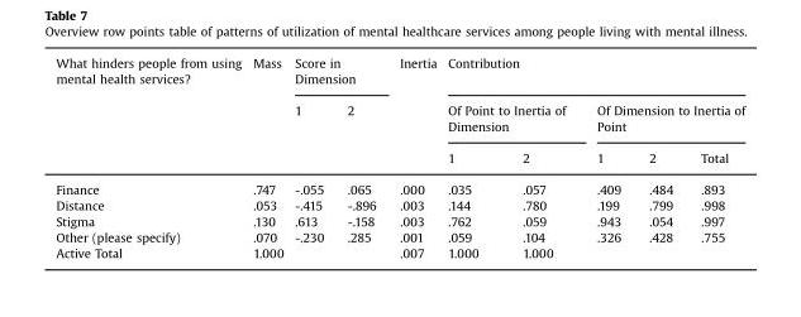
<table><thead><tr><td rowspan="3">What hinders people from using mental health services?</td><td rowspan="3">Mass</td><td colspan="2">Score in Dimension</td><td rowspan="3">Inertia</td><td colspan="5">Contribution</td></tr><tr><td rowspan="2">1</td><td rowspan="2">2</td><td colspan="2">Of Point to Inertia of Dimension</td><td colspan="3">Of Dimension to Inertia of Point</td></tr><tr><td>1</td><td>2</td><td>1</td><td>2</td><td>Total</td></tr></thead><tbody><tr><td>Finance</td><td>.747</td><td>-.055</td><td>.065</td><td>.000</td><td>.035</td><td>.057</td><td>.409</td><td>.484</td><td>.893</td></tr><tr><td>Distance</td><td>.053</td><td>-.415</td><td>-.896</td><td>.003</td><td>.144</td><td>.780</td><td>.199</td><td>.799</td><td>.998</td></tr><tr><td>Stigma</td><td>.130</td><td>.613</td><td>-.158</td><td>.003</td><td>.762</td><td>.059</td><td>.943</td><td>.054</td><td>.997</td></tr><tr><td>Other (please specify)</td><td>.070</td><td>-.230</td><td>.285</td><td>.001</td><td>.059</td><td>.104</td><td>.326</td><td>.428</td><td>.755</td></tr><tr><td>Active Total</td><td>1.000</td><td></td><td></td><td>.007</td><td>1.000</td><td>1.000</td><td></td><td></td><td></td></tr></tbody></table>